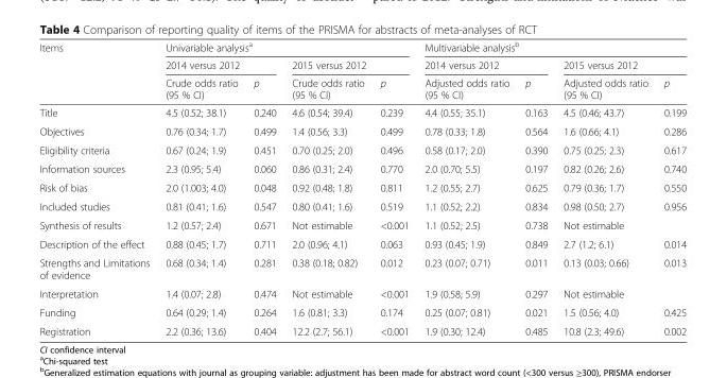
<table><thead><tr><td rowspan="3">Items</td><td colspan="4">Univariable analysis<sup>a</sup></td><td colspan="4">Multivariable analysis<sup>b</sup></td></tr><tr><td colspan="2">2014 versus 2012</td><td colspan="2">2015 versus 2012</td><td colspan="2">2014 versus 2012</td><td colspan="2">2015 versus 2012</td></tr><tr><td>Crude odds ratio (95 % CI)</td><td>p</td><td>Crude odds ratio (95 % CI)</td><td>p</td><td>Adjusted odds ratio (95 % CI)</td><td>p</td><td>Adjusted odds ratio (95 % CI)</td><td>p</td></tr></thead><tbody><tr><td>Title</td><td>4.5 (0.52; 38.1)</td><td>0.240</td><td>4.6 (0.54; 39.4)</td><td>0.239</td><td>4.4 (0.55; 35.1)</td><td>0.163</td><td>4.5 (0.46; 43.7)</td><td>0.199</td></tr><tr><td>Objectives</td><td>0.76 (0.34; 1.7)</td><td>0.499</td><td>1.4 (0.56; 3.3)</td><td>0.499</td><td>0.78 (0.33; 1.8)</td><td>0.564</td><td>1.6 (0.66; 4.1)</td><td>0.286</td></tr><tr><td>Eligibility criteria</td><td>0.67 (0.24; 1.9)</td><td>0.451</td><td>0.70 (0.25; 2.0)</td><td>0.496</td><td>0.58 (0.17; 2.0)</td><td>0.390</td><td>0.75 (0.25; 2.3)</td><td>0.617</td></tr><tr><td>Information sources</td><td>2.3 (0.95; 5.4)</td><td>0.060</td><td>0.86 (0.31; 2.4)</td><td>0.770</td><td>2.0 (0.70; 5.5)</td><td>0.197</td><td>0.82 (0.26; 2.6)</td><td>0.740</td></tr><tr><td>Risk of bias</td><td>2.0 (1.003; 4.0)</td><td>0.048</td><td>0.92 (0.48; 1.8)</td><td>0.811</td><td>1.2 (0.55; 2.7)</td><td>0.625</td><td>0.79 (0.36; 1.7)</td><td>0.550</td></tr><tr><td>Included studies</td><td>0.81 (0.41; 1.6)</td><td>0.547</td><td>0.80 (0.41; 1.6)</td><td>0.519</td><td>1.1 (0.52; 2.2)</td><td>0.834</td><td>0.98 (0.50; 2.7)</td><td>0.956</td></tr><tr><td>Synthesis of results</td><td>1.2 (0.57; 2.4)</td><td>0.671</td><td>Not estimable</td><td>&lt;0.001</td><td>1.1 (0.52; 2.5)</td><td>0.738</td><td>Not estimable</td><td></td></tr><tr><td>Description of the effect</td><td>0.88 (0.45; 1.7)</td><td>0.711</td><td>2.0 (0.96; 4.1)</td><td>0.063</td><td>0.93 (0.45; 1.9)</td><td>0.849</td><td>2.7 (1.2; 6.1)</td><td>0.014</td></tr><tr><td>Strengths and Limitations of evidence</td><td>0.68 (0.34; 1.4)</td><td>0.281</td><td>0.38 (0.18; 0.82)</td><td>0.012</td><td>0.23 (0.07; 0.71)</td><td>0.011</td><td>0.13 (0.03; 0.66)</td><td>0.013</td></tr><tr><td>Interpretation</td><td>1.4 (0.07; 2.8)</td><td>0.474</td><td>Not estimable</td><td>&lt;0.001</td><td>1.9 (0.58; 5.9)</td><td>0.297</td><td>Not estimable</td><td></td></tr><tr><td>Funding</td><td>0.64 (0.29; 1.4)</td><td>0.264</td><td>1.6 (0.81; 3.3)</td><td>0.174</td><td>0.25 (0.07; 0.81)</td><td>0.021</td><td>1.5 (0.56; 4.0)</td><td>0.425</td></tr><tr><td>Registration</td><td>2.2 (0.36; 13.6)</td><td>0.404</td><td>12.2 (2.7; 56.1)</td><td>&lt;0.001</td><td>1.9 (0.30; 12.4)</td><td>0.485</td><td>10.8 (2.3; 49.6)</td><td>0.002</td></tr></tbody></table>